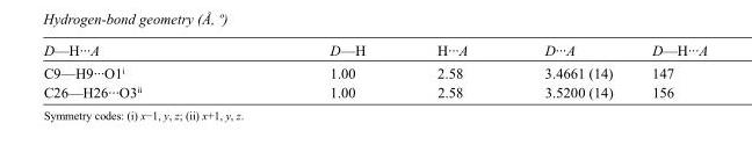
<table><tbody><tr><td>D—H···A</td><td>D—H</td><td>H···A</td><td>D···A</td><td>D—H···A</td></tr><tr><td>C9—H9···O1<sup>i</sup></td><td>1.00</td><td>2.58</td><td>3.4661 (14)</td><td>147</td></tr><tr><td>C26—H26···O3<sup>ii</sup></td><td>1.00</td><td>2.58</td><td>3.5200 (14)</td><td>156</td></tr></tbody></table>